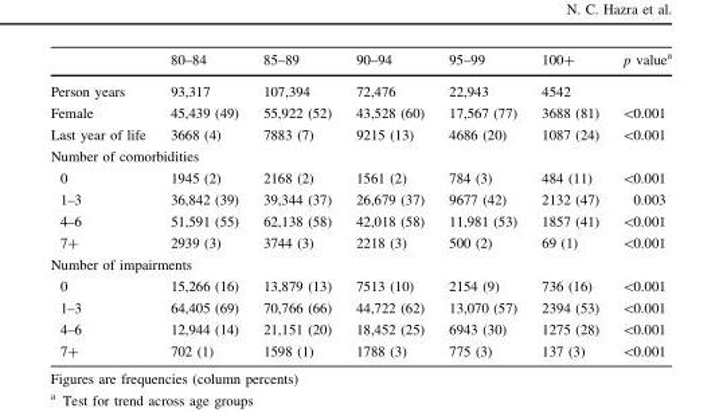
<table><thead><tr><td></td><td>80–84</td><td>85–89</td><td>90–94</td><td>95–99</td><td>100+</td><td>p value<sup>a</sup></td></tr></thead><tbody><tr><td>Person years</td><td>93,317</td><td>107,394</td><td>72,476</td><td>22,943</td><td>4542</td><td></td></tr><tr><td>Female</td><td>45,439 (49)</td><td>55,922 (52)</td><td>43,528 (60)</td><td>17,567 (77)</td><td>3688 (81)</td><td>&lt;0.001</td></tr><tr><td>Last year of life</td><td>3668 (4)</td><td>7883 (7)</td><td>9215 (13)</td><td>4686 (20)</td><td>1087 (24)</td><td>&lt;0.001</td></tr><tr><td colspan="7">Number of comorbidities</td></tr><tr><td>0</td><td>1945 (2)</td><td>2168 (2)</td><td>1561 (2)</td><td>784 (3)</td><td>484 (11)</td><td>&lt;0.001</td></tr><tr><td>1–3</td><td>36,842 (39)</td><td>39,344 (37)</td><td>26,679 (37)</td><td>9677 (42)</td><td>2132 (47)</td><td>0.003</td></tr><tr><td>4–6</td><td>51,591 (55)</td><td>62,138 (58)</td><td>42,018 (58)</td><td>11,981 (53)</td><td>1857 (41)</td><td>&lt;0.001</td></tr><tr><td>7+</td><td>2939 (3)</td><td>3744 (3)</td><td>2218 (3)</td><td>500 (2)</td><td>69 (1)</td><td>&lt;0.001</td></tr><tr><td colspan="7">Number of impairments</td></tr><tr><td>0</td><td>15,266 (16)</td><td>13,879 (13)</td><td>7513 (10)</td><td>2154 (9)</td><td>736 (16)</td><td>&lt;0.001</td></tr><tr><td>1–3</td><td>64,405 (69)</td><td>70,766 (66)</td><td>44,722 (62)</td><td>13,070 (57)</td><td>2394 (53)</td><td>&lt;0.001</td></tr><tr><td>4–6</td><td>12,944 (14)</td><td>21,151 (20)</td><td>18,452 (25)</td><td>6943 (30)</td><td>1275 (28)</td><td>&lt;0.001</td></tr><tr><td>7+</td><td>702 (1)</td><td>1598 (1)</td><td>1788 (3)</td><td>775 (3)</td><td>137 (3)</td><td>&lt;0.001</td></tr></tbody></table>